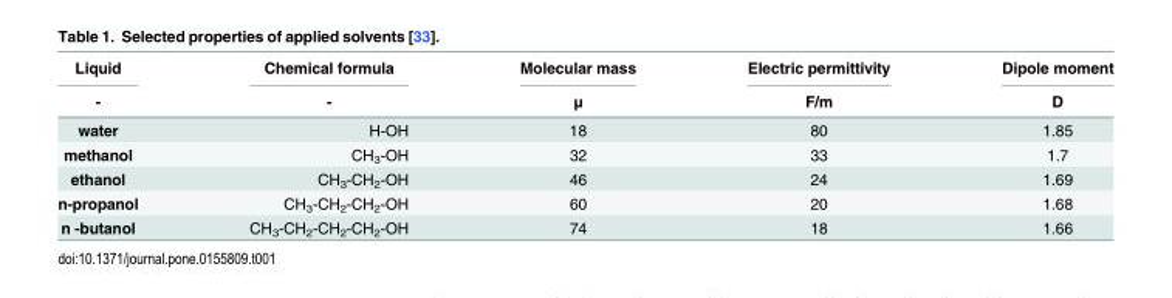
<table><thead><tr><td rowspan="2">Liquid -</td><td rowspan="2">Chemical formula -</td><td rowspan="2">Molecular mass μ</td><td rowspan="2">Electric permittivity F/m</td><td rowspan="2">Dipole moment D</td></tr><tr></tr></thead><tbody><tr><td>water</td><td>H-OH</td><td>18</td><td>80</td><td>1.85</td></tr><tr><td>methanol</td><td>CH<sub>3</sub>-OH</td><td>32</td><td>33</td><td>1.7</td></tr><tr><td>ethanol</td><td>CH<sub>3</sub>-CH<sub>2</sub>-OH</td><td>46</td><td>24</td><td>1.69</td></tr><tr><td>n-propanol</td><td>CH<sub>3</sub>-CH<sub>2</sub>-CH<sub>2</sub>-OH</td><td>60</td><td>20</td><td>1.68</td></tr><tr><td>n -butanol</td><td>CH<sub>3</sub>-CH<sub>2</sub>-CH<sub>2</sub>-CH<sub>2</sub>-OH</td><td>74</td><td>18</td><td>1.66</td></tr></tbody></table>